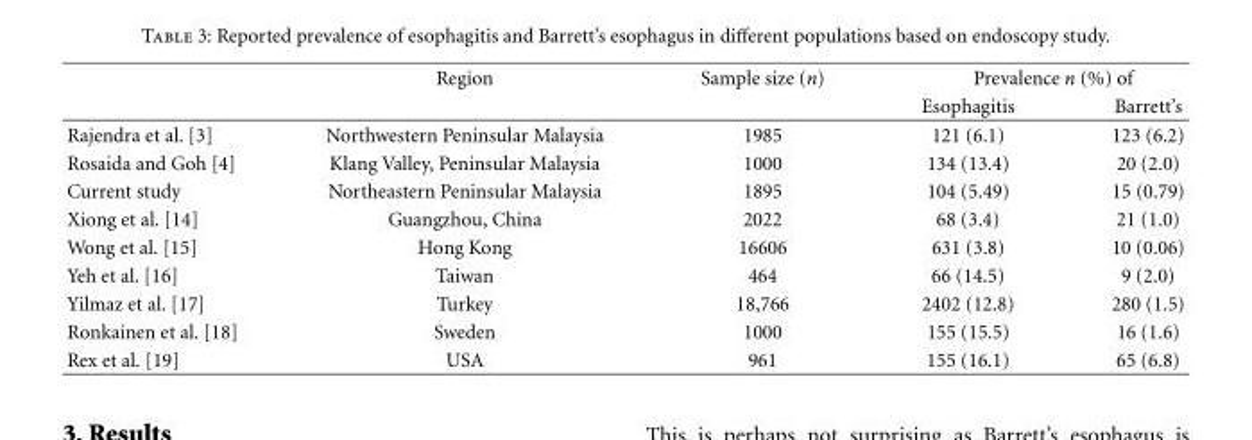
<table><thead><tr><td rowspan="2"></td><td rowspan="2">Region</td><td rowspan="2">Sample size (n)</td><td colspan="2">Prevalence n (%) of</td></tr><tr><td>Esophagitis</td><td>Barrett’s</td></tr></thead><tbody><tr><td>Rajendra et al. [3]</td><td>Northwestern Peninsular Malaysia</td><td>1985</td><td>121 (6.1)</td><td>123 (6.2)</td></tr><tr><td>Rosaida and Goh [4]</td><td>Klang Valley, Peninsular Malaysia</td><td>1000</td><td>134 (13.4)</td><td>20 (2.0)</td></tr><tr><td>Current study</td><td>Northeastern Peninsular Malaysia</td><td>1895</td><td>104 (5.49)</td><td>15 (0.79)</td></tr><tr><td>Xiong et al. [14]</td><td>Guangzhou, China</td><td>2022</td><td>68 (3.4)</td><td>21 (1.0)</td></tr><tr><td>Wong et al. [15]</td><td>Hong Kong</td><td>16606</td><td>631 (3.8)</td><td>10 (0.06)</td></tr><tr><td>Yeh et al. [16]</td><td>Taiwan</td><td>464</td><td>66 (14.5)</td><td>9 (2.0)</td></tr><tr><td>Yilmaz et al. [17]</td><td>Turkey</td><td>18,766</td><td>2402 (12.8)</td><td>280 (1.5)</td></tr><tr><td>Ronkainen et al. [18]</td><td>Sweden</td><td>1000</td><td>155 (15.5)</td><td>16 (1.6)</td></tr><tr><td>Rex et al. [19]</td><td>USA</td><td>961</td><td>155 (16.1)</td><td>65 (6.8)</td></tr></tbody></table>